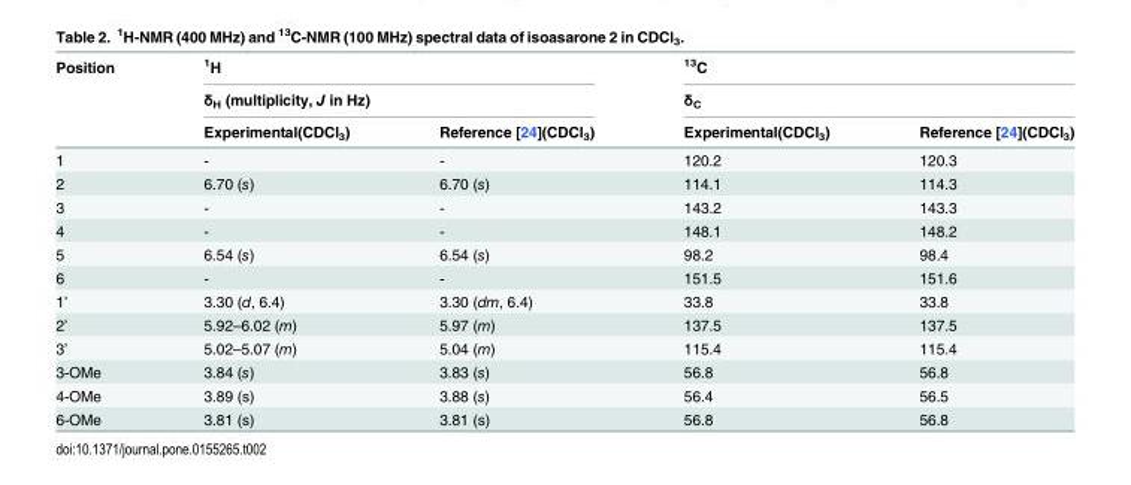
<table><thead><tr><td rowspan="3">Position</td><td rowspan="2" colspan="2"><sup>1</sup>H δ<sub>H</sub> (multiplicity, J in Hz)</td><td rowspan="2" colspan="2"><sup>13</sup>C δ<sub>C</sub></td></tr><tr></tr><tr><td>Experimental(CDCl<sub>3</sub>)</td><td>Reference [24](CDCl<sub>3</sub>)</td><td>Experimental(CDCl<sub>3</sub>)</td><td>Reference [24](CDCl<sub>3</sub>)</td></tr></thead><tbody><tr><td>1</td><td>-</td><td>-</td><td>120.2</td><td>120.3</td></tr><tr><td>2</td><td>6.70 (s)</td><td>6.70 (s)</td><td>114.1</td><td>114.3</td></tr><tr><td>3</td><td>-</td><td>-</td><td>143.2</td><td>143.3</td></tr><tr><td>4</td><td>-</td><td>-</td><td>148.1</td><td>148.2</td></tr><tr><td>5</td><td>6.54 (s)</td><td>6.54 (s)</td><td>98.2</td><td>98.4</td></tr><tr><td>6</td><td>-</td><td>-</td><td>151.5</td><td>151.6</td></tr><tr><td>1’</td><td>3.30 (d, 6.4)</td><td>3.30 (dm, 6.4)</td><td>33.8</td><td>33.8</td></tr><tr><td>2’</td><td>5.92–6.02 (m)</td><td>5.97 (m)</td><td>137.5</td><td>137.5</td></tr><tr><td>3’</td><td>5.02–5.07 (m)</td><td>5.04 (m)</td><td>115.4</td><td>115.4</td></tr><tr><td>3-OMe</td><td>3.84 (s)</td><td>3.83 (s)</td><td>56.8</td><td>56.8</td></tr><tr><td>4-OMe</td><td>3.89 (s)</td><td>3.88 (s)</td><td>56.4</td><td>56.5</td></tr><tr><td>6-OMe</td><td>3.81 (s)</td><td>3.81 (s)</td><td>56.8</td><td>56.8</td></tr></tbody></table>